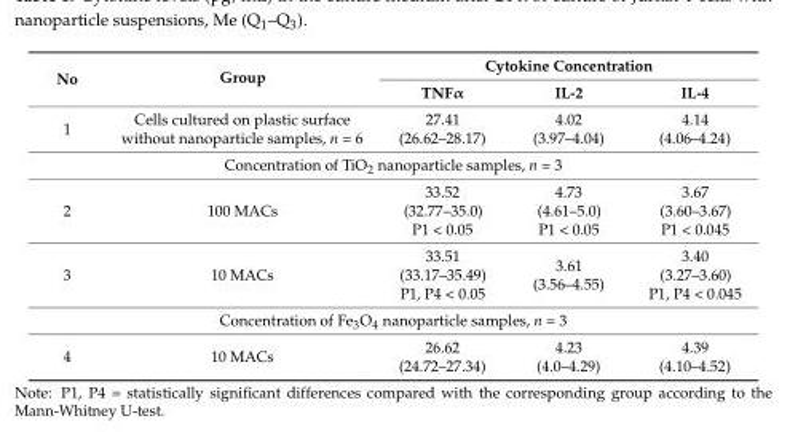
<table><thead><tr><td rowspan="2">No</td><td rowspan="2">Group</td><td colspan="3">Cytokine Concentration</td></tr><tr><td>TNFα</td><td>IL-2</td><td>IL-4</td></tr></thead><tbody><tr><td>1</td><td>Cells cultured on plastic surface without nanoparticle samples, n = 6</td><td>27.41 (26.62–28.17)</td><td>4.02 (3.97–4.04)</td><td>4.14 (4.06–4.24)</td></tr><tr><td colspan="5">Concentration of TiO<sub>2</sub> nanoparticle samples, n = 3</td></tr><tr><td>2</td><td>100 MACs</td><td>33.52 (32.77–35.0) P1 &lt; 0.05</td><td>4.73 (4.61–5.0) P1 &lt; 0.05</td><td>3.67 (3.60–3.67) P1 &lt; 0.045</td></tr><tr><td>3</td><td>10 MACs</td><td>33.51 (33.17–35.49) P1, P4 &lt; 0.05</td><td>3.61 (3.56–4.55)</td><td>3.40 (3.27–3.60) P1, P4 &lt; 0.045</td></tr><tr><td colspan="5">Concentration of Fe<sub>3</sub>O<sub>4</sub> nanoparticle samples, n = 3</td></tr><tr><td>4</td><td>10 MACs</td><td>26.62 (24.72–27.34)</td><td>4.23 (4.0–4.29)</td><td>4.39 (4.10–4.52)</td></tr></tbody></table>